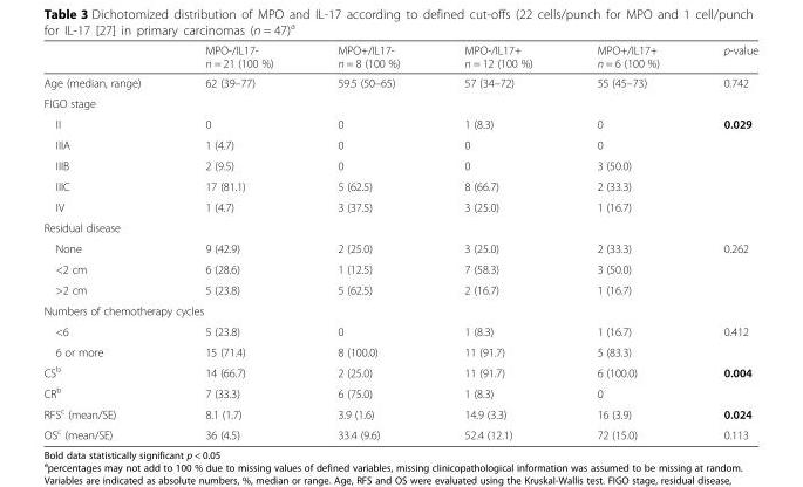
<table><thead><tr><td></td><td>MPO-/IL17- n = 21 (100 %)</td><td>MPO+/IL17- n = 8 (100 %)</td><td>MPO-/IL17+ n = 12 (100 %)</td><td>MPO+/IL17+ n = 6 (100 %)</td><td>p-value</td></tr></thead><tbody><tr><td>Age (median, range)</td><td>62 (39–77)</td><td>59.5 (50–65)</td><td>57 (34–72)</td><td>55 (45–73)</td><td>0.742</td></tr><tr><td colspan="6">FIGO stage</td></tr><tr><td>II</td><td>0</td><td>0</td><td>1 (8.3)</td><td>0</td><td rowspan="5">0.029</td></tr><tr><td>IIIA</td><td>1 (4.7)</td><td>0</td><td>0</td><td>0</td></tr><tr><td>IIIB</td><td>2 (9.5)</td><td>0</td><td>0</td><td>3 (50.0)</td></tr><tr><td>IIIC</td><td>17 (81.1)</td><td>5 (62.5)</td><td>8 (66.7)</td><td>2 (33.3)</td></tr><tr><td>IV</td><td>1 (4.7)</td><td>3 (37.5)</td><td>3 (25.0)</td><td>1 (16.7)</td></tr><tr><td colspan="6">Residual disease</td></tr><tr><td>None</td><td>9 (42.9)</td><td>2 (25.0)</td><td>3 (25.0)</td><td>2 (33.3)</td><td rowspan="3">0.262</td></tr><tr><td>&lt;2 cm</td><td>6 (28.6)</td><td>1 (12.5)</td><td>7 (58.3)</td><td>3 (50.0)</td></tr><tr><td>&gt;2 cm</td><td>5 (23.8)</td><td>5 (62.5)</td><td>2 (16.7)</td><td>1 (16.7)</td></tr><tr><td colspan="6">Numbers of chemotherapy cycles</td></tr><tr><td>&lt;6</td><td>5 (23.8)</td><td>0</td><td>1 (8.3)</td><td>1 (16.7)</td><td rowspan="2">0.412</td></tr><tr><td>6 or more</td><td>15 (71.4)</td><td>8 (100.0)</td><td>11 (91.7)</td><td>5 (83.3)</td></tr><tr><td>CS<sup>b</sup></td><td>14 (66.7)</td><td>2 (25.0)</td><td>11 (91.7)</td><td>6 (100.0)</td><td rowspan="2">0.004</td></tr><tr><td>CR<sup>b</sup></td><td>7 (33.3)</td><td>6 (75.0)</td><td>1 (8.3)</td><td>0</td></tr><tr><td>RFS<sup>c</sup> (mean/SE)</td><td>8.1 (1.7)</td><td>3.9 (1.6)</td><td>14.9 (3.3)</td><td>16 (3.9)</td><td>0.024</td></tr><tr><td>OS<sup>c</sup> (mean/SE)</td><td>36 (4.5)</td><td>33.4 (9.6)</td><td>52.4 (12.1)</td><td>72 (15.0)</td><td>0.113</td></tr></tbody></table>